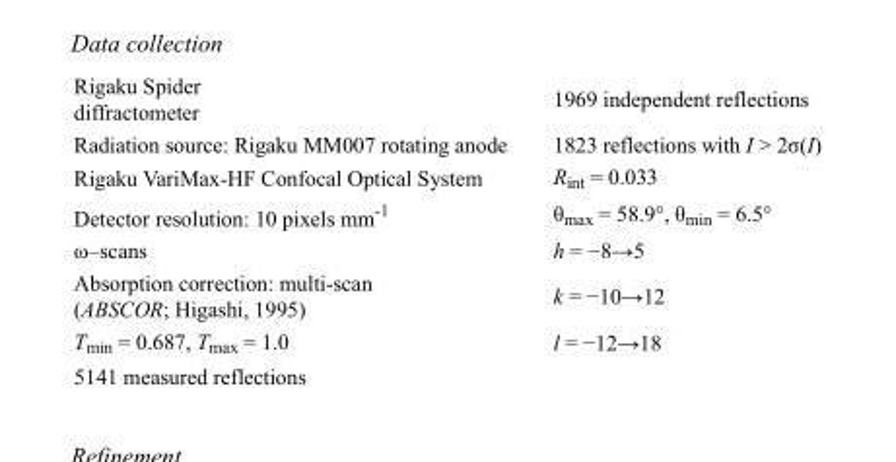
<table><tbody><tr><td>Rigaku Spider diffractometer</td><td>1969 independent reflections</td></tr><tr><td>Radiation source: Rigaku MM007 rotating anode</td><td>1823 reflections with I &gt; 2σ(I)</td></tr><tr><td>Rigaku VariMax-HF Confocal Optical System</td><td>R<sub>int</sub> = 0.033</td></tr><tr><td>Detector resolution: 10 pixels mm<sup>-1</sup></td><td>θ<sub>max</sub> = 58.9°, θ<sub>min</sub> = 6.5°</td></tr><tr><td>ω–scans</td><td>h = −8→5</td></tr><tr><td>Absorption correction: multi-scan (ABSCOR; Higashi, 1995)</td><td>k = −10→12</td></tr><tr><td>T<sub>min</sub> = 0.687, T<sub>max</sub> = 1.0</td><td>l = −12→18</td></tr><tr><td>5141 measured reflections</td><td></td></tr></tbody></table>